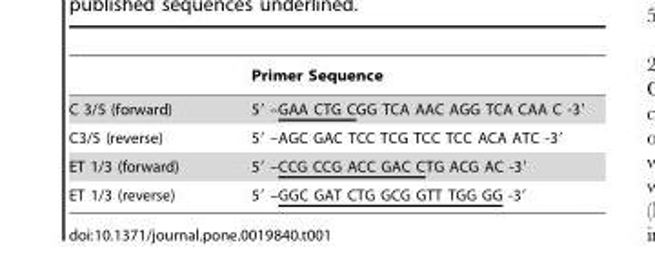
<table><thead><tr><td></td><td>Primer Sequence</td></tr></thead><tbody><tr><td>C 3/5 (forward)</td><td>5′ –GAA CTG CGG TCA AAC AGG TCA CAA C -3′</td></tr><tr><td>C3/5 (reverse)</td><td>5′ –AGC GAC TCC TCG TCC TCC ACA ATC -3′</td></tr><tr><td>ET 1/3 (forward)</td><td>5′ –CCG CCG ACC GAC CTG ACG AC -3′</td></tr><tr><td>ET 1/3 (reverse)</td><td>5′ –GGC GAT CTG GCG GTT TGG GG -3′</td></tr></tbody></table>